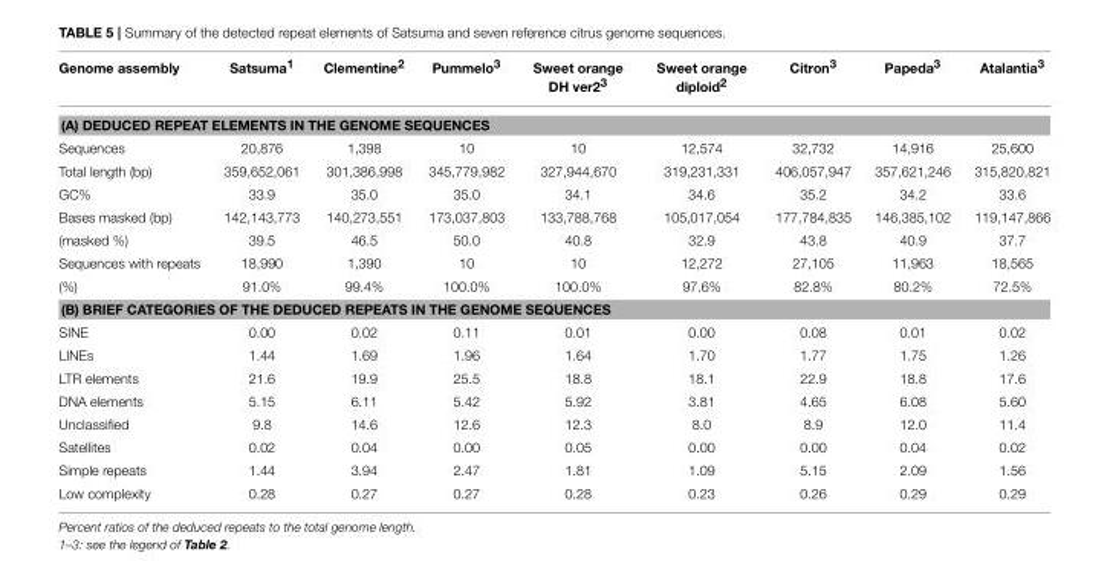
<table><thead><tr><td>Genome assembly</td><td>Satsuma<sup>1</sup></td><td>Clementine<sup>2</sup></td><td>Pummelo<sup>3</sup></td><td>Sweet orange DH ver2<sup>3</sup></td><td>Sweet orange diploid<sup>2</sup></td><td>Citron<sup>3</sup></td><td>Papeda<sup>3</sup></td><td>Atalantia<sup>3</sup></td></tr></thead><tbody><tr><td colspan="9">(A) DEDUCED REPEAT ELEMENTS IN THE GENOME SEQUENCES</td></tr><tr><td>Sequences</td><td>20,876</td><td>1,398</td><td>10</td><td>10</td><td>12,574</td><td>32,732</td><td>14,916</td><td>25,600</td></tr><tr><td>Total length (bp)</td><td>359,652,061</td><td>301,386,998</td><td>345,779,982</td><td>327,944,670</td><td>319,231,331</td><td>406,057,947</td><td>357,621,246</td><td>315,820,821</td></tr><tr><td>GC%</td><td>33.9</td><td>35.0</td><td>35.0</td><td>34.1</td><td>34.6</td><td>35.2</td><td>34.2</td><td>33.6</td></tr><tr><td>Bases masked (bp)</td><td>142,143,773</td><td>140,273,551</td><td>173,037,803</td><td>133,788,768</td><td>105,017,054</td><td>177,784,835</td><td>146,385,102</td><td>119,147,866</td></tr><tr><td>(masked %)</td><td>39.5</td><td>46.5</td><td>50.0</td><td>40.8</td><td>32.9</td><td>43.8</td><td>40.9</td><td>37.7</td></tr><tr><td>Sequences with repeats</td><td>18,990</td><td>1,390</td><td>10</td><td>10</td><td>12,272</td><td>27,105</td><td>11,963</td><td>18,565</td></tr><tr><td>(%)</td><td>91.0%</td><td>99.4%</td><td>100.0%</td><td>100.0%</td><td>97.6%</td><td>82.8%</td><td>80.2%</td><td>72.5%</td></tr><tr><td colspan="9">(B) BRIEF CATEGORIES OF THE DEDUCED REPEATS IN THE GENOME SEQUENCES</td></tr><tr><td>SINE</td><td>0.00</td><td>0.02</td><td>0.11</td><td>0.01</td><td>0.00</td><td>0.08</td><td>0.01</td><td>0.02</td></tr><tr><td>LINEs</td><td>1.44</td><td>1.69</td><td>1.96</td><td>1.64</td><td>1.70</td><td>1.77</td><td>1.75</td><td>1.26</td></tr><tr><td>LTR elements</td><td>21.6</td><td>19.9</td><td>25.5</td><td>18.8</td><td>18.1</td><td>22.9</td><td>18.8</td><td>17.6</td></tr><tr><td>DNA elements</td><td>5.15</td><td>6.11</td><td>5.42</td><td>5.92</td><td>3.81</td><td>4.65</td><td>6.08</td><td>5.60</td></tr><tr><td>Unclassified</td><td>9.8</td><td>14.6</td><td>12.6</td><td>12.3</td><td>8.0</td><td>8.9</td><td>12.0</td><td>11.4</td></tr><tr><td>Satellites</td><td>0.02</td><td>0.04</td><td>0.00</td><td>0.05</td><td>0.00</td><td>0.00</td><td>0.04</td><td>0.02</td></tr><tr><td>Simple repeats</td><td>1.44</td><td>3.94</td><td>2.47</td><td>1.81</td><td>1.09</td><td>5.15</td><td>2.09</td><td>1.56</td></tr><tr><td>Low complexity</td><td>0.28</td><td>0.27</td><td>0.27</td><td>0.28</td><td>0.23</td><td>0.26</td><td>0.29</td><td>0.29</td></tr></tbody></table>